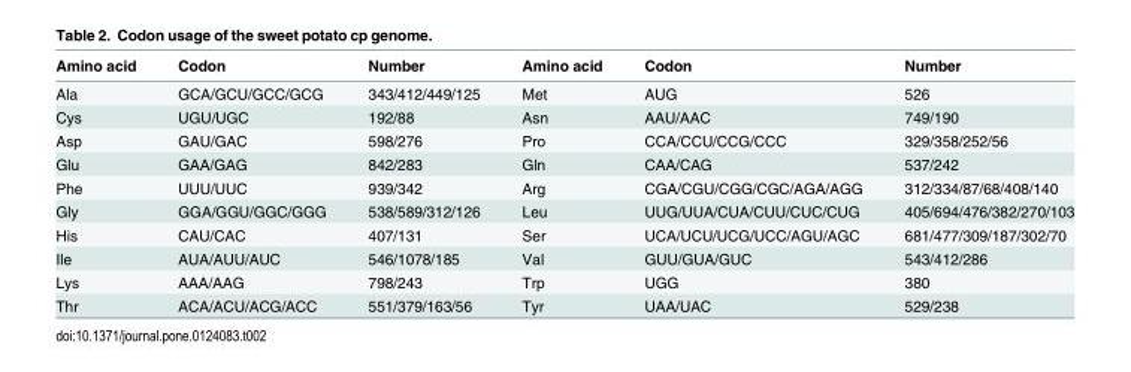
<table><thead><tr><td>Amino acid</td><td>Codon</td><td>Number</td><td>Amino acid</td><td>Codon</td><td>Number</td></tr></thead><tbody><tr><td>Ala</td><td>GCA/GCU/GCC/GCG</td><td>343/412/449/125</td><td>Met</td><td>AUG</td><td>526</td></tr><tr><td>Cys</td><td>UGU/UGC</td><td>192/88</td><td>Asn</td><td>AAU/AAC</td><td>749/190</td></tr><tr><td>Asp</td><td>GAU/GAC</td><td>598/276</td><td>Pro</td><td>CCA/CCU/CCG/CCC</td><td>329/358/252/56</td></tr><tr><td>Glu</td><td>GAA/GAG</td><td>842/283</td><td>Gln</td><td>CAA/CAG</td><td>537/242</td></tr><tr><td>Phe</td><td>UUU/UUC</td><td>939/342</td><td>Arg</td><td>CGA/CGU/CGG/CGC/AGA/AGG</td><td>312/334/87/68/408/140</td></tr><tr><td>Gly</td><td>GGA/GGU/GGC/GGG</td><td>538/589/312/126</td><td>Leu</td><td>UUG/UUA/CUA/CUU/CUC/CUG</td><td>405/694/476/382/270/103</td></tr><tr><td>His</td><td>CAU/CAC</td><td>407/131</td><td>Ser</td><td>UCA/UCU/UCG/UCC/AGU/AGC</td><td>681/477/309/187/302/70</td></tr><tr><td>Ile</td><td>AUA/AUU/AUC</td><td>546/1078/185</td><td>Val</td><td>GUU/GUA/GUC</td><td>543/412/286</td></tr><tr><td>Lys</td><td>AAA/AAG</td><td>798/243</td><td>Trp</td><td>UGG</td><td>380</td></tr><tr><td>Thr</td><td>ACA/ACU/ACG/ACC</td><td>551/379/163/56</td><td>Tyr</td><td>UAA/UAC</td><td>529/238</td></tr></tbody></table>